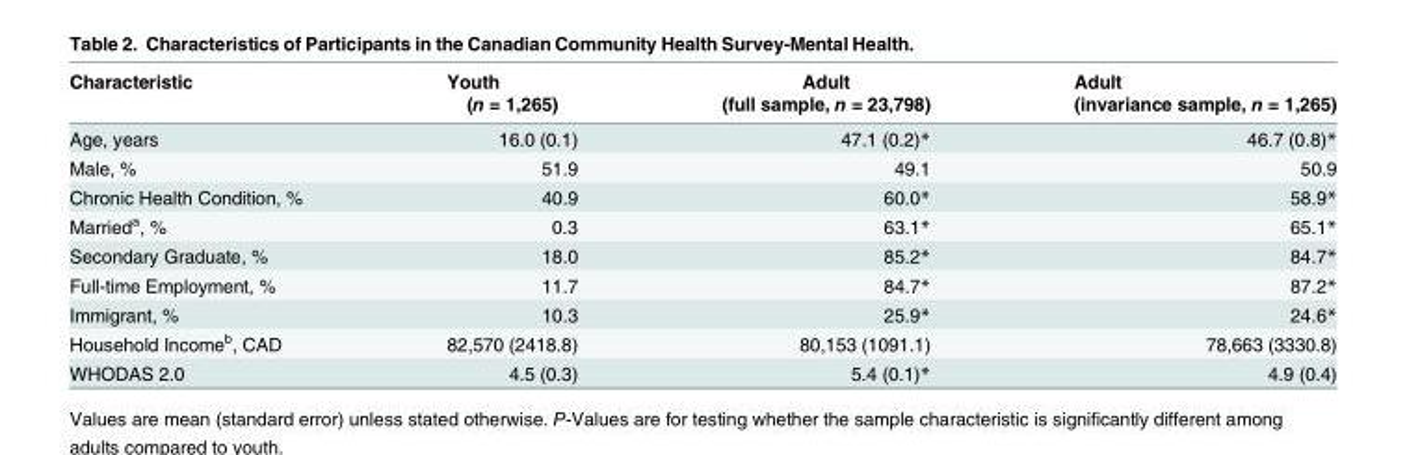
<table><thead><tr><td rowspan="2">Characteristic</td><td rowspan="2">Youth (n = 1,265)</td><td rowspan="2">Adult (full sample, n = 23,798)</td><td rowspan="2">Adult (invariance sample, n = 1,265)</td></tr><tr></tr></thead><tbody><tr><td>Age, years</td><td>16.0 (0.1)</td><td>47.1 (0.2)*</td><td>46.7 (0.8)*</td></tr><tr><td>Male, %</td><td>51.9</td><td>49.1</td><td>50.9</td></tr><tr><td>Chronic Health Condition, %</td><td>40.9</td><td>60.0*</td><td>58.9*</td></tr><tr><td>Married<sup>a</sup>, %</td><td>0.3</td><td>63.1*</td><td>65.1*</td></tr><tr><td>Secondary Graduate, %</td><td>18.0</td><td>85.2*</td><td>84.7*</td></tr><tr><td>Full-time Employment, %</td><td>11.7</td><td>84.7*</td><td>87.2*</td></tr><tr><td>Immigrant, %</td><td>10.3</td><td>25.9*</td><td>24.6*</td></tr><tr><td>Household Income<sup>b</sup>, CAD</td><td>82,570 (2418.8)</td><td>80,153 (1091.1)</td><td>78,663 (3330.8)</td></tr><tr><td>WHODAS 2.0</td><td>4.5 (0.3)</td><td>5.4 (0.1)*</td><td>4.9 (0.4)</td></tr></tbody></table>